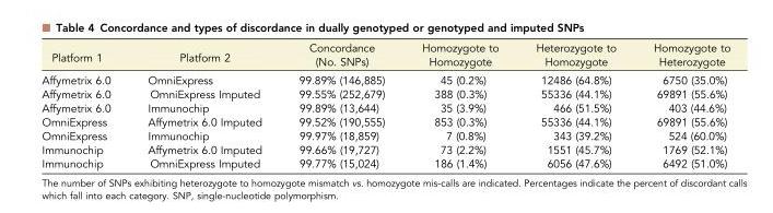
<table><thead><tr><td>Platform 1</td><td>Platform 2</td><td>Concordance (No. SNPs)</td><td>Homozygote to Homozygote</td><td>Heterozygote to Homozygote</td><td>Homozygote to Heterozygote</td></tr></thead><tbody><tr><td>Affymetrix 6.0</td><td>OmniExpress</td><td>99.89% (146,885)</td><td>45 (0.2%)</td><td>12486 (64.8%)</td><td>6750 (35.0%)</td></tr><tr><td>Affymetrix 6.0</td><td>OmniExpress Imputed</td><td>99.55% (252,679)</td><td>388 (0.3%)</td><td>55336 (44.1%)</td><td>69891 (55.6%)</td></tr><tr><td>Affymetrix 6.0</td><td>Immunochip</td><td>99.89% (13,644)</td><td>35 (3.9%)</td><td>466 (51.5%)</td><td>403 (44.6%)</td></tr><tr><td>OmniExpress</td><td>Affymetrix 6.0 Imputed</td><td>99.52% (190,555)</td><td>853 (0.3%)</td><td>55336 (44.1%)</td><td>69891 (55.6%)</td></tr><tr><td>OmniExpress</td><td>Immunochip</td><td>99.97% (18,859)</td><td>7 (0.8%)</td><td>343 (39.2%)</td><td>524 (60.0%)</td></tr><tr><td>Immunochip</td><td>Affymetrix 6.0 Imputed</td><td>99.66% (19,727)</td><td>73 (2.2%)</td><td>1551 (45.7%)</td><td>1769 (52.1%)</td></tr><tr><td>Immunochip</td><td>OmniExpress Imputed</td><td>99.77% (15,024)</td><td>186 (1.4%)</td><td>6056 (47.6%)</td><td>6492 (51.0%)</td></tr></tbody></table>